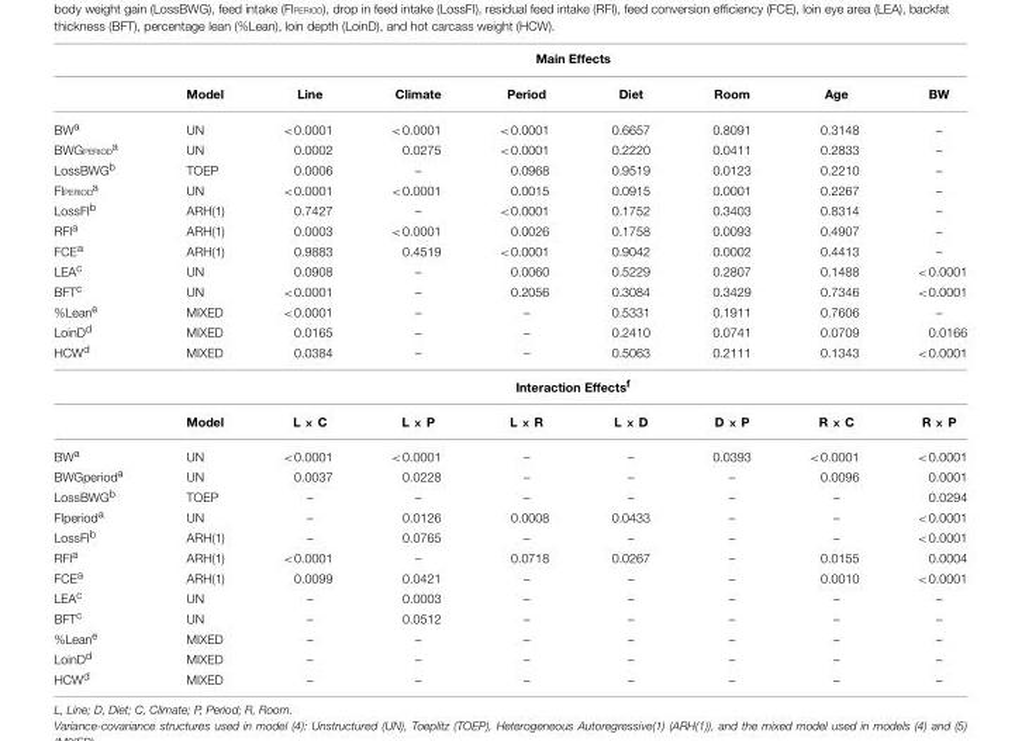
<table><thead><tr><td rowspan="2"></td><td rowspan="2">Model</td><td colspan="6">Main Effects</td><td rowspan="2">BW</td></tr><tr><td>Line</td><td>Climate</td><td>Period</td><td>Diet</td><td>Room</td><td>Age</td></tr></thead><tbody><tr><td>BW<sup>a</sup></td><td>UN</td><td>&lt;0.0001</td><td>&lt;0.0001</td><td>&lt;0.0001</td><td>0.6657</td><td>0.8091</td><td>0.3148</td><td>–</td></tr><tr><td>BWGPERIOD<sup>a</sup></td><td>UN</td><td>0.0002</td><td>0.0275</td><td>&lt;0.0001</td><td>0.2220</td><td>0.0411</td><td>0.2833</td><td>–</td></tr><tr><td>LossBWG<sup>b</sup></td><td>TOEP</td><td>0.0006</td><td>–</td><td>0.0968</td><td>0.9519</td><td>0.0123</td><td>0.2210</td><td>–</td></tr><tr><td>FIPERIOD<sup>a</sup></td><td>UN</td><td>&lt;0.0001</td><td>&lt;0.0001</td><td>0.0015</td><td>0.0915</td><td>0.0001</td><td>0.2267</td><td>–</td></tr><tr><td>LossFI<sup>b</sup></td><td>ARH(1)</td><td>0.7427</td><td>–</td><td>&lt;0.0001</td><td>0.1752</td><td>0.3403</td><td>0.8314</td><td>–</td></tr><tr><td>RFI<sup>a</sup></td><td>ARH(1)</td><td>0.0003</td><td>&lt;0.0001</td><td>0.0026</td><td>0.1758</td><td>0.0093</td><td>0.4907</td><td>–</td></tr><tr><td>FCE<sup>a</sup></td><td>ARH(1)</td><td>0.9883</td><td>0.4519</td><td>&lt;0.0001</td><td>0.9042</td><td>0.0002</td><td>0.4413</td><td>–</td></tr><tr><td>LEA<sup>c</sup></td><td>UN</td><td>0.0908</td><td>–</td><td>0.0060</td><td>0.5229</td><td>0.2807</td><td>0.1488</td><td>&lt;0.0001</td></tr><tr><td>BFT<sup>c</sup></td><td>UN</td><td>&lt;0.0001</td><td>–</td><td>0.2056</td><td>0.3084</td><td>0.3429</td><td>0.7346</td><td>&lt;0.0001</td></tr><tr><td>%Lean<sup>e</sup></td><td>MIXED</td><td>&lt;0.0001</td><td>–</td><td>–</td><td>0.5331</td><td>0.1911</td><td>0.7606</td><td>–</td></tr><tr><td>LoinD<sup>d</sup></td><td>MIXED</td><td>0.0165</td><td>–</td><td>–</td><td>0.2410</td><td>0.0741</td><td>0.0709</td><td>0.0166</td></tr><tr><td rowspan="3">HCW<sup>d</sup></td><td>MIXED</td><td>0.0384</td><td>–</td><td>–</td><td>0.5063</td><td>0.2111</td><td>0.1343</td><td>&lt;0.0001</td></tr><tr><td></td><td colspan="6">Interaction Effects<sup>f</sup></td><td></td></tr><tr><td>Model</td><td>L × C</td><td>L × P</td><td>L × R</td><td>L × D</td><td>D × P</td><td>R × C</td><td>R × P</td></tr><tr><td>BW<sup>a</sup></td><td>UN</td><td>&lt;0.0001</td><td>&lt;0.0001</td><td>–</td><td>–</td><td>0.0393</td><td>&lt;0.0001</td><td>&lt;0.0001</td></tr><tr><td>BWGperiod<sup>a</sup></td><td>UN</td><td>0.0037</td><td>0.0228</td><td>–</td><td>–</td><td>–</td><td>0.0096</td><td>0.0001</td></tr><tr><td>LossBWG<sup>b</sup></td><td>TOEP</td><td>–</td><td>–</td><td>–</td><td>–</td><td>–</td><td>–</td><td>0.0294</td></tr><tr><td>FIperiod<sup>a</sup></td><td>UN</td><td>–</td><td>0.0126</td><td>0.0008</td><td>0.0433</td><td>–</td><td>–</td><td>&lt;0.0001</td></tr><tr><td>LossFI<sup>b</sup></td><td>ARH(1)</td><td>–</td><td>0.0765</td><td>–</td><td>–</td><td>–</td><td>–</td><td>&lt;0.0001</td></tr><tr><td>RFI<sup>a</sup></td><td>ARH(1)</td><td>&lt;0.0001</td><td>–</td><td>0.0718</td><td>0.0267</td><td>–</td><td>0.0155</td><td>0.0004</td></tr><tr><td>FCE<sup>a</sup></td><td>ARH(1)</td><td>0.0099</td><td>0.0421</td><td>–</td><td>–</td><td>–</td><td>0.0010</td><td>&lt;0.0001</td></tr><tr><td>LEA<sup>c</sup></td><td>UN</td><td>–</td><td>0.0003</td><td>–</td><td>–</td><td>–</td><td>–</td><td>–</td></tr><tr><td>BFT<sup>c</sup></td><td>UN</td><td>–</td><td>0.0512</td><td>–</td><td>–</td><td>–</td><td>–</td><td>–</td></tr><tr><td>%Lean<sup>e</sup></td><td>MIXED</td><td>–</td><td>–</td><td>–</td><td>–</td><td>–</td><td>–</td><td>–</td></tr><tr><td>LoinD<sup>d</sup></td><td>MIXED</td><td>–</td><td>–</td><td>–</td><td>–</td><td>–</td><td>–</td><td>–</td></tr><tr><td>HCW<sup>d</sup></td><td>MIXED</td><td>–</td><td>–</td><td>–</td><td>–</td><td>–</td><td>–</td><td>–</td></tr></tbody></table>